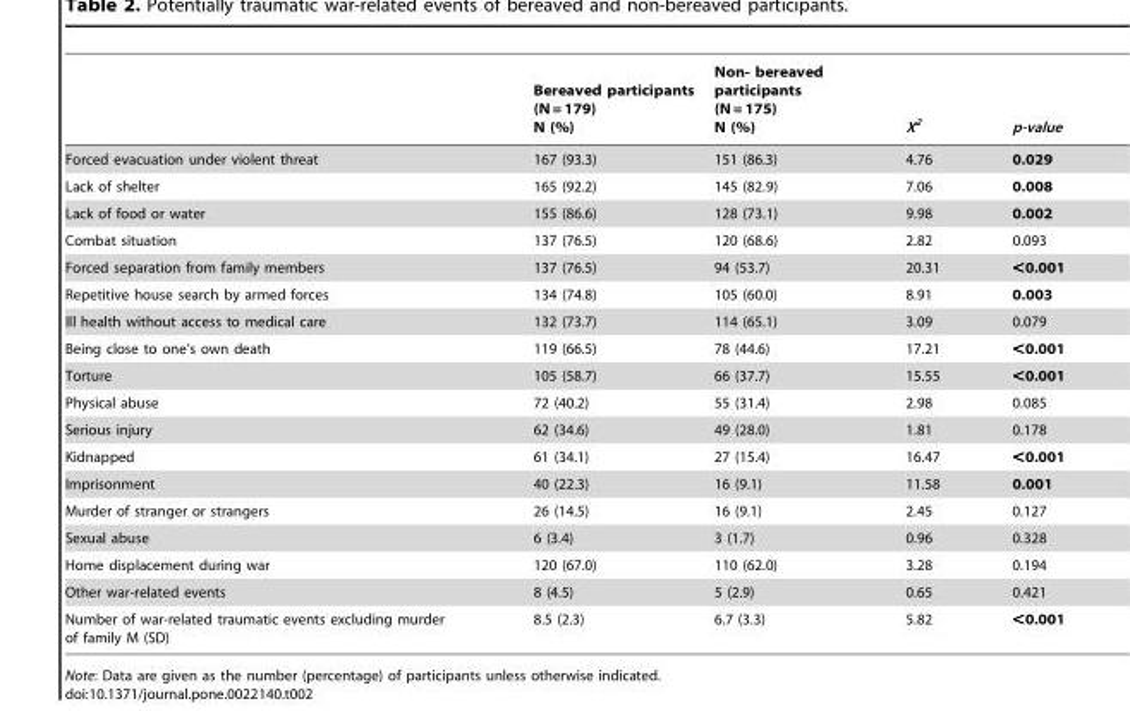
<table><thead><tr><td></td><td>Bereaved participants (N = 179) N (%)</td><td>Non- bereaved participants (N = 175) N (%)</td><td>X<sup>2</sup></td><td>p-value</td></tr></thead><tbody><tr><td>Forced evacuation under violent threat</td><td>167 (93.3)</td><td>151 (86.3)</td><td>4.76</td><td>0.029</td></tr><tr><td>Lack of shelter</td><td>165 (92.2)</td><td>145 (82.9)</td><td>7.06</td><td>0.008</td></tr><tr><td>Lack of food or water</td><td>155 (86.6)</td><td>128 (73.1)</td><td>9.98</td><td>0.002</td></tr><tr><td>Combat situation</td><td>137 (76.5)</td><td>120 (68.6)</td><td>2.82</td><td>0.093</td></tr><tr><td>Forced separation from family members</td><td>137 (76.5)</td><td>94 (53.7)</td><td>20.31</td><td>&lt;0.001</td></tr><tr><td>Repetitive house search by armed forces</td><td>134 (74.8)</td><td>105 (60.0)</td><td>8.91</td><td>0.003</td></tr><tr><td>Ill health without access to medical care</td><td>132 (73.7)</td><td>114 (65.1)</td><td>3.09</td><td>0.079</td></tr><tr><td>Being close to one’s own death</td><td>119 (66.5)</td><td>78 (44.6)</td><td>17.21</td><td>&lt;0.001</td></tr><tr><td>Torture</td><td>105 (58.7)</td><td>66 (37.7)</td><td>15.55</td><td>&lt;0.001</td></tr><tr><td>Physical abuse</td><td>72 (40.2)</td><td>55 (31.4)</td><td>2.98</td><td>0.085</td></tr><tr><td>Serious injury</td><td>62 (34.6)</td><td>49 (28.0)</td><td>1.81</td><td>0.178</td></tr><tr><td>Kidnapped</td><td>61 (34.1)</td><td>27 (15.4)</td><td>16.47</td><td>&lt;0.001</td></tr><tr><td>Imprisonment</td><td>40 (22.3)</td><td>16 (9.1)</td><td>11.58</td><td>0.001</td></tr><tr><td>Murder of stranger or strangers</td><td>26 (14.5)</td><td>16 (9.1)</td><td>2.45</td><td>0.127</td></tr><tr><td>Sexual abuse</td><td>6 (3.4)</td><td>3 (1.7)</td><td>0.96</td><td>0.328</td></tr><tr><td>Home displacement during war</td><td>120 (67.0)</td><td>110 (62.0)</td><td>3.28</td><td>0.194</td></tr><tr><td>Other war-related events</td><td>8 (4.5)</td><td>5 (2.9)</td><td>0.65</td><td>0.421</td></tr><tr><td>Number of war-related traumatic events excluding murder of family M (SD)</td><td>8.5 (2.3)</td><td>6.7 (3.3)</td><td>5.82</td><td>&lt;0.001</td></tr></tbody></table>